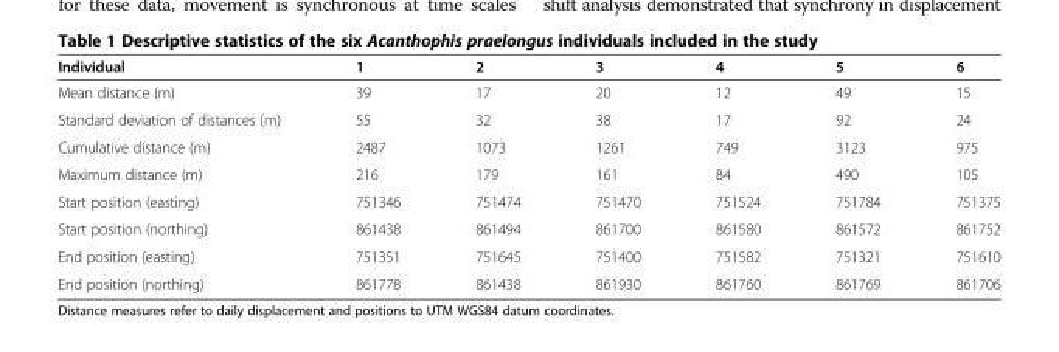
<table><thead><tr><td>Individual</td><td>1</td><td>2</td><td>3</td><td>4</td><td>5</td><td>6</td></tr></thead><tbody><tr><td>Mean distance (m)</td><td>39</td><td>17</td><td>20</td><td>12</td><td>49</td><td>15</td></tr><tr><td>Standard deviation of distances (m)</td><td>55</td><td>32</td><td>38</td><td>17</td><td>92</td><td>24</td></tr><tr><td>Cumulative distance (m)</td><td>2487</td><td>1073</td><td>1261</td><td>749</td><td>3123</td><td>975</td></tr><tr><td>Maximum distance (m)</td><td>216</td><td>179</td><td>161</td><td>84</td><td>490</td><td>105</td></tr><tr><td>Start position (easting)</td><td>751346</td><td>751474</td><td>751470</td><td>751524</td><td>751784</td><td>751375</td></tr><tr><td>Start position (northing)</td><td>861438</td><td>861494</td><td>861700</td><td>861580</td><td>861572</td><td>861752</td></tr><tr><td>End position (easting)</td><td>751351</td><td>751645</td><td>751400</td><td>751582</td><td>751321</td><td>751610</td></tr><tr><td>End position (northing)</td><td>861778</td><td>861438</td><td>861930</td><td>861760</td><td>861769</td><td>861706</td></tr></tbody></table>